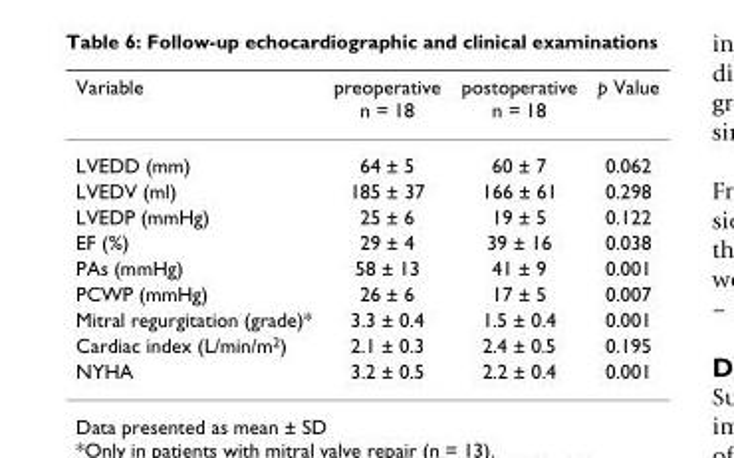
<table><thead><tr><td>Variable</td><td>preoperative n = 18</td><td>postoperative n = 18</td><td>p Value</td></tr></thead><tbody><tr><td>LVEDD (mm)</td><td>64 ± 5</td><td>60 ± 7</td><td>0.062</td></tr><tr><td>LVEDV (ml)</td><td>185 ± 37</td><td>166 ± 61</td><td>0.298</td></tr><tr><td>LVEDP (mmHg)</td><td>25 ± 6</td><td>19 ± 5</td><td>0.122</td></tr><tr><td>EF (%)</td><td>29 ± 4</td><td>39 ± 16</td><td>0.038</td></tr><tr><td>PAs (mmHg)</td><td>58 ± 13</td><td>41 ± 9</td><td>0.001</td></tr><tr><td>PCWP (mmHg)</td><td>26 ± 6</td><td>17 ± 5</td><td>0.007</td></tr><tr><td>Mitral regurgitation (grade)*</td><td>3.3 ± 0.4</td><td>1.5 ± 0.4</td><td>0.001</td></tr><tr><td>Cardiac index (L/min/m<sup>2</sup>)</td><td>2.1 ± 0.3</td><td>2.4 ± 0.5</td><td>0.195</td></tr><tr><td>NYHA</td><td>3.2 ± 0.5</td><td>2.2 ± 0.4</td><td>0.001</td></tr></tbody></table>